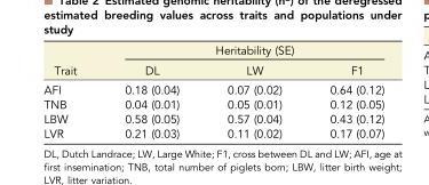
<table><thead><tr><td rowspan="2">Trait</td><td colspan="3">Heritability (SE)</td></tr><tr><td>DL</td><td>LW</td><td>F1</td></tr></thead><tbody><tr><td>AFI</td><td>0.18 (0.04)</td><td>0.07 (0.02)</td><td>0.64 (0.12)</td></tr><tr><td>TNB</td><td>0.04 (0.01)</td><td>0.05 (0.01)</td><td>0.12 (0.05)</td></tr><tr><td>LBW</td><td>0.58 (0.05)</td><td>0.57 (0.04)</td><td>0.43 (0.12)</td></tr><tr><td>LVR</td><td>0.21 (0.03)</td><td>0.11 (0.02)</td><td>0.17 (0.07)</td></tr></tbody></table>